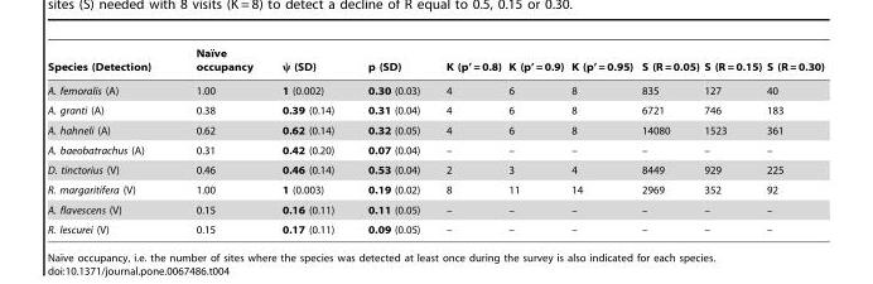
<table><thead><tr><td>Species (Detection)</td><td>Naı¨ve occupancy</td><td>ψ (SD)</td><td>p (SD)</td><td>K (p’ = 0.8)</td><td>K (p’ = 0.9)</td><td>K (p’ = 0.95)</td><td>S (R = 0.05)</td><td>S (R = 0.15)</td><td>S (R = 0.30)</td></tr></thead><tbody><tr><td>A. femoralis (A)</td><td>1.00</td><td>1 (0.002)</td><td>0.30 (0.03)</td><td>4</td><td>6</td><td>8</td><td>835</td><td>127</td><td>40</td></tr><tr><td>A. granti (A)</td><td>0.38</td><td>0.39 (0.14)</td><td>0.31 (0.04)</td><td>4</td><td>6</td><td>8</td><td>6721</td><td>746</td><td>183</td></tr><tr><td>A. hahneli (A)</td><td>0.62</td><td>0.62 (0.14)</td><td>0.32 (0.05)</td><td>4</td><td>6</td><td>8</td><td>14080</td><td>1523</td><td>361</td></tr><tr><td>A. baeobatrachus (A)</td><td>0.31</td><td>0.42 (0.20)</td><td>0.07 (0.04)</td><td>–</td><td>–</td><td>–</td><td>–</td><td>–</td><td>–</td></tr><tr><td>D. tinctorius (V)</td><td>0.46</td><td>0.46 (0.14)</td><td>0.53 (0.04)</td><td>2</td><td>3</td><td>4</td><td>8449</td><td>929</td><td>225</td></tr><tr><td>R. margaritifera (V)</td><td>1.00</td><td>1 (0.003)</td><td>0.19 (0.02)</td><td>8</td><td>11</td><td>14</td><td>2969</td><td>352</td><td>92</td></tr><tr><td>A. flavescens (V)</td><td>0.15</td><td>0.16 (0.11)</td><td>0.11 (0.05)</td><td>–</td><td>–</td><td>–</td><td>–</td><td>–</td><td>–</td></tr><tr><td>R. lescurei (V)</td><td>0.15</td><td>0.17 (0.11)</td><td>0.09 (0.05)</td><td>–</td><td>–</td><td>–</td><td>–</td><td>–</td><td>–</td></tr></tbody></table>